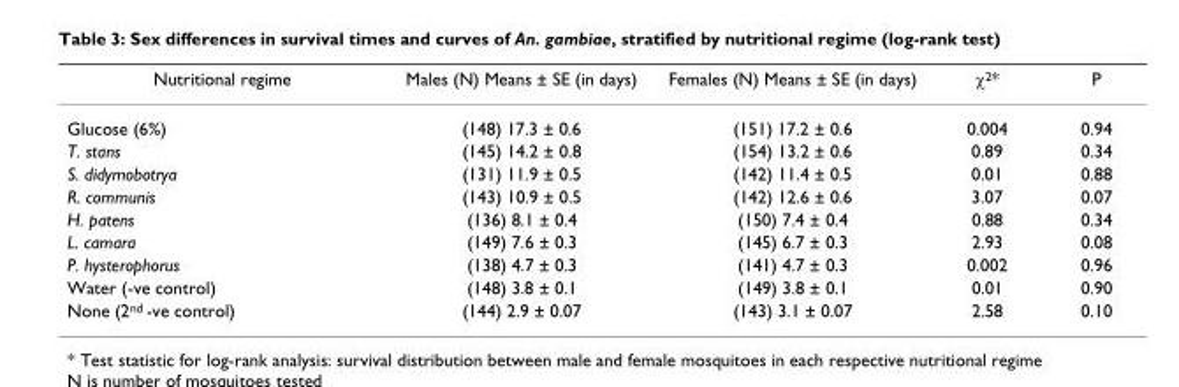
<table><thead><tr><td>Nutritional regime</td><td>Males (N) Means ± SE (in days)</td><td>Females (N) Means ± SE (in days)</td><td>χ<sup>2</sup>*</td><td>P</td></tr></thead><tbody><tr><td>Glucose (6%)</td><td>(148) 17.3 ± 0.6</td><td>(151) 17.2 ± 0.6</td><td>0.004</td><td>0.94</td></tr><tr><td>T. stans</td><td>(145) 14.2 ± 0.8</td><td>(154) 13.2 ± 0.6</td><td>0.89</td><td>0.34</td></tr><tr><td>S. didymobotrya</td><td>(131) 11.9 ± 0.5</td><td>(142) 11.4 ± 0.5</td><td>0.01</td><td>0.88</td></tr><tr><td>R. communis</td><td>(143) 10.9 ± 0.5</td><td>(142) 12.6 ± 0.6</td><td>3.07</td><td>0.07</td></tr><tr><td>H. patens</td><td>(136) 8.1 ± 0.4</td><td>(150) 7.4 ± 0.4</td><td>0.88</td><td>0.34</td></tr><tr><td>L. camara</td><td>(149) 7.6 ± 0.3</td><td>(145) 6.7 ± 0.3</td><td>2.93</td><td>0.08</td></tr><tr><td>P. hysterophorus</td><td>(138) 4.7 ± 0.3</td><td>(141) 4.7 ± 0.3</td><td>0.002</td><td>0.96</td></tr><tr><td>Water (-ve control)</td><td>(148) 3.8 ± 0.1</td><td>(149) 3.8 ± 0.1</td><td>0.01</td><td>0.90</td></tr><tr><td>None (2<sup>nd</sup> -ve control)</td><td>(144) 2.9 ± 0.07</td><td>(143) 3.1 ± 0.07</td><td>2.58</td><td>0.10</td></tr></tbody></table>